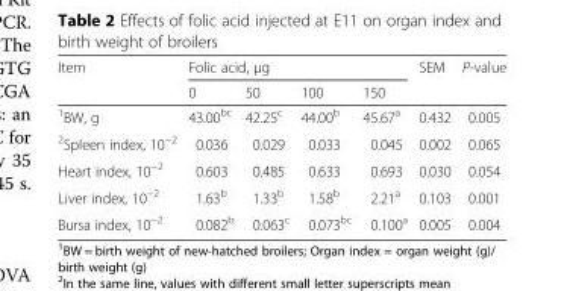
<table><thead><tr><td rowspan="2">Item</td><td colspan="4">Folic acid, μg</td><td rowspan="2">SEM</td><td rowspan="2">P-value</td></tr><tr><td>0</td><td>50</td><td>100</td><td>150</td></tr></thead><tbody><tr><td><sup>1</sup>BW, g</td><td>43.00<sup>bc</sup></td><td>42.25<sup>c</sup></td><td>44.00<sup>b</sup></td><td>45.67<sup>a</sup></td><td>0.432</td><td>0.005</td></tr><tr><td><sup>2</sup>Spleen index, 10<sup>−2</sup></td><td>0.036</td><td>0.029</td><td>0.033</td><td>0.045</td><td>0.002</td><td>0.065</td></tr><tr><td>Heart index, 10<sup>−2</sup></td><td>0.603</td><td>0.485</td><td>0.633</td><td>0.693</td><td>0.030</td><td>0.054</td></tr><tr><td>Liver index, 10<sup>−2</sup></td><td>1.63<sup>b</sup></td><td>1.33<sup>b</sup></td><td>1.58<sup>b</sup></td><td>2.21<sup>a</sup></td><td>0.103</td><td>0.001</td></tr><tr><td>Bursa index, 10<sup>−2</sup></td><td>0.082<sup>b</sup></td><td>0.063<sup>c</sup></td><td>0.073<sup>bc</sup></td><td>0.100<sup>a</sup></td><td>0.005</td><td>0.004</td></tr></tbody></table>